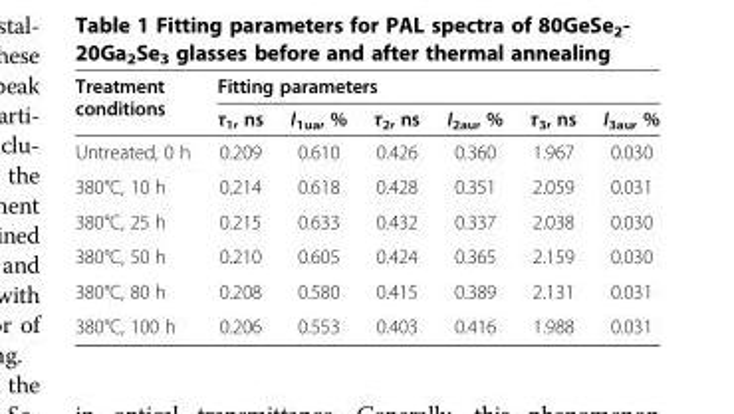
<table><thead><tr><td rowspan="2">Treatment conditions</td><td colspan="6">Fitting parameters</td></tr><tr><td>τ<sub>1</sub>, ns</td><td>I<sub>1ua</sub>, %</td><td>τ<sub>2</sub>, ns</td><td>I<sub>2au</sub>, %</td><td>τ<sub>3</sub>, ns</td><td>I<sub>3au</sub>, %</td></tr></thead><tbody><tr><td>Untreated, 0 h</td><td>0.209</td><td>0.610</td><td>0.426</td><td>0.360</td><td>1.967</td><td>0.030</td></tr><tr><td>380°C, 10 h</td><td>0.214</td><td>0.618</td><td>0.428</td><td>0.351</td><td>2.059</td><td>0.031</td></tr><tr><td>380°C, 25 h</td><td>0.215</td><td>0.633</td><td>0.432</td><td>0.337</td><td>2.038</td><td>0.030</td></tr><tr><td>380°C, 50 h</td><td>0.210</td><td>0.605</td><td>0.424</td><td>0.365</td><td>2.159</td><td>0.030</td></tr><tr><td>380°C, 80 h</td><td>0.208</td><td>0.580</td><td>0.415</td><td>0.389</td><td>2.131</td><td>0.031</td></tr><tr><td>380°C, 100 h</td><td>0.206</td><td>0.553</td><td>0.403</td><td>0.416</td><td>1.988</td><td>0.031</td></tr></tbody></table>